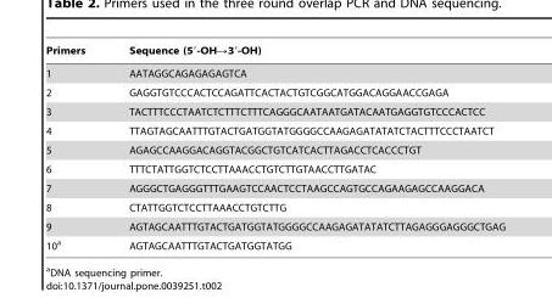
<table><thead><tr><td>Primers</td><td>Sequence (5′-OH→3′-OH)</td></tr></thead><tbody><tr><td>1</td><td>AATAGGCAGAGAGAGTCA</td></tr><tr><td>2</td><td>GAGGTGTCCCACTCCAGATTCACTACTGTCGGCATGGACAGGAACCGAGA</td></tr><tr><td>3</td><td>TACTTTCCCTAATCTCTTTCTTTCAGGGCAATAATGATACAATGAGGTGTCCCACTCC</td></tr><tr><td>4</td><td>TTAGTAGCAATTTGTACTGATGGTATGGGGCCAAGAGATATATCTACTTTCCCTAATCT</td></tr><tr><td>5</td><td>AGAGCCAAGGACAGGTACGGCTGTCATCACTTAGACCTCACCCTGT</td></tr><tr><td>6</td><td>TTTCTATTGGTCTCCTTAAACCTGTCTTGTAACCTTGATAC</td></tr><tr><td>7</td><td>AGGGCTGAGGGTTTGAAGTCCAACTCCTAAGCCAGTGCCAGAAGAGCCAAGGACA</td></tr><tr><td>8</td><td>CTATTGGTCTCCTTAAACCTGTCTTG</td></tr><tr><td>9</td><td>AGTAGCAATTTGTACTGATGGTATGGGGCCAAGAGATATATCTTAGAGGGAGGGCTGAG</td></tr><tr><td>10<sup>a</sup></td><td>AGTAGCAATTTGTACTGATGGTATGG</td></tr></tbody></table>